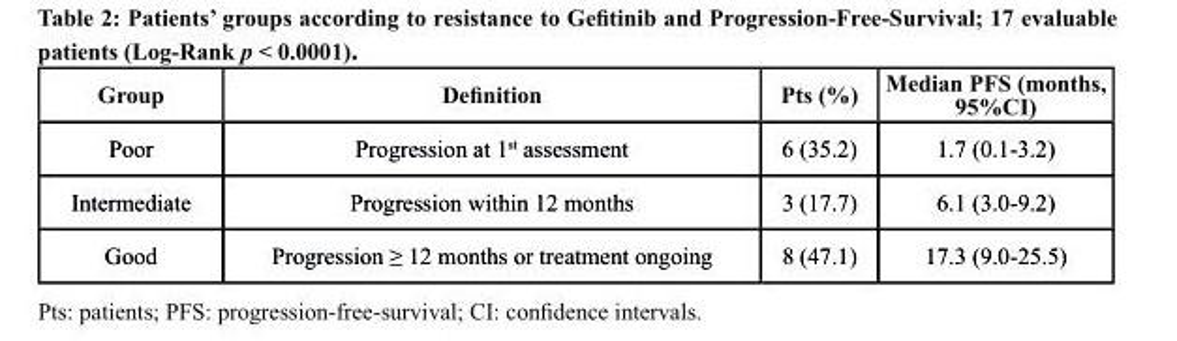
<table><thead><tr><td>Group</td><td>Definition</td><td>Pts (%)</td><td>Median PFs (months, 95%cI)</td></tr></thead><tbody><tr><td>Poor</td><td>Progression at 1<sup>st</sup> assessment</td><td>6 (35.2)</td><td>1.7 (0.1-3.2)</td></tr><tr><td>Intermediate</td><td>Progression within 12 months</td><td>3 (17.7)</td><td>6.1 (3.0-9.2)</td></tr><tr><td>Good</td><td>Progression ≥ 12 months or treatment ongoing</td><td>8 (47.1)</td><td>17.3 (9.0-25.5)</td></tr></tbody></table>